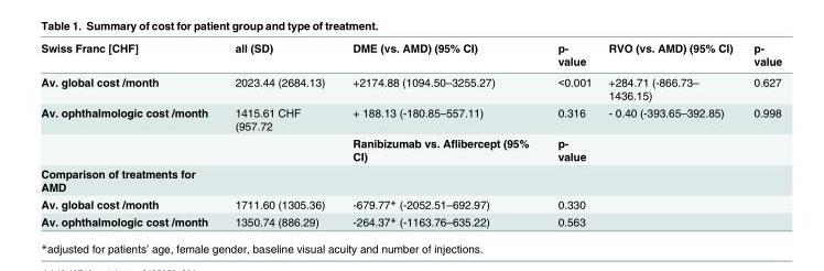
<table><thead><tr><td>Swiss Franc [CHF]</td><td>all (SD)</td><td>DME (vs. AMD) (95% CI)</td><td>p- value</td><td>RVO (vs. AMD) (95% CI)</td><td>p- value</td></tr></thead><tbody><tr><td>Av. global cost /month</td><td>2023.44 (2684.13)</td><td>+2174.88 (1094.50–3255.27)</td><td>&lt;0.001</td><td>+284.71 (-866.73– 1436.15)</td><td>0.627</td></tr><tr><td rowspan="2">Av. ophthalmologic cost /month</td><td>1415.61 CHF (957.72</td><td>+ 188.13 (-180.85–557.11)</td><td>0.316</td><td>- 0.40 (-393.65–392.85)</td><td>0.998</td></tr><tr><td></td><td>Ranibizumab vs. Aflibercept (95% CI)</td><td>p- value</td><td></td><td></td></tr><tr><td colspan="6">Comparison of treatments for AMD</td></tr><tr><td>Av. global cost /month</td><td>1711.60 (1305.36)</td><td>-679.77* (-2052.51–692.97)</td><td>0.330</td><td></td><td></td></tr><tr><td>Av. ophthalmologic cost /month</td><td>1350.74 (886.29)</td><td>-264.37* (-1163.76–635.22)</td><td>0.563</td><td></td><td></td></tr></tbody></table>